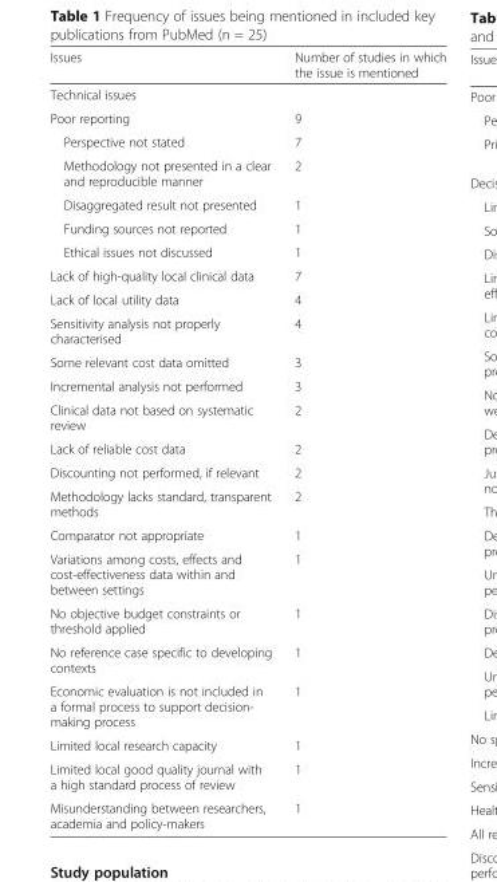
<table><thead><tr><td>Issues</td><td>Number of studies in which the issue is mentioned</td></tr></thead><tbody><tr><td colspan="2">Technical issues</td></tr><tr><td>Poor reporting</td><td>9</td></tr><tr><td>Perspective not stated</td><td>7</td></tr><tr><td>Methodology not presented in a clear and reproducible manner</td><td>2</td></tr><tr><td>Disaggregated result not presented</td><td>1</td></tr><tr><td>Funding sources not reported</td><td>1</td></tr><tr><td>Ethical issues not discussed</td><td>1</td></tr><tr><td>Lack of high-quality local clinical data</td><td>7</td></tr><tr><td>Lack of local utility data</td><td>4</td></tr><tr><td>Sensitivity analysis not properly characterised</td><td>4</td></tr><tr><td>Some relevant cost data omitted</td><td>3</td></tr><tr><td>Incremental analysis not performed</td><td>3</td></tr><tr><td>Clinical data not based on systematic review</td><td>2</td></tr><tr><td>Lack of reliable cost data</td><td>2</td></tr><tr><td>Discounting not performed, if relevant</td><td>2</td></tr><tr><td>Methodology lacks standard, transparent methods</td><td>2</td></tr><tr><td>Comparator not appropriate</td><td>1</td></tr><tr><td>Variations among costs, effects and cost-effectiveness data within and between settings</td><td>1</td></tr><tr><td>No objective budget constraints or threshold applied</td><td>1</td></tr><tr><td>No reference case specific to developing contexts</td><td>1</td></tr><tr><td>Economic evaluation is not included in a formal process to support decision- making process</td><td>1</td></tr><tr><td>Limited local research capacity</td><td>1</td></tr><tr><td>Limited local good quality journal with a high standard process of review</td><td>1</td></tr><tr><td>Misunderstanding between researchers, academia and policy-makers</td><td>1</td></tr></tbody></table>